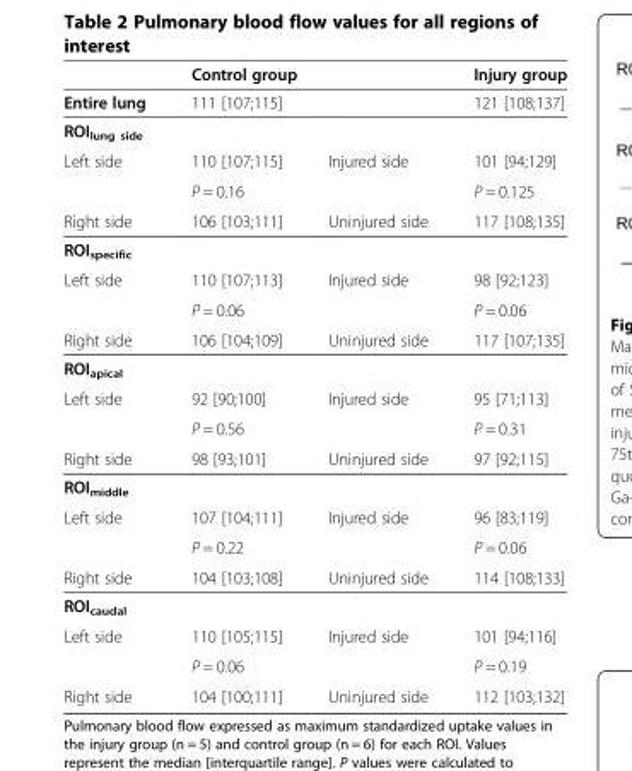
<table><thead><tr><td rowspan="2">Entire lung</td><td colspan="2">Control group</td><td rowspan="2">Injury group 121 [108;137]</td></tr><tr><td>111 [107;115]</td><td></td></tr></thead><tbody><tr><td colspan="4">ROI<sub>lung side</sub></td></tr><tr><td rowspan="2">Left side</td><td>110 [107;115]</td><td>Injured side</td><td>101 [94;129]</td></tr><tr><td>P = 0.16</td><td></td><td>P = 0.125</td></tr><tr><td>Right side</td><td>106 [103;111]</td><td>Uninjured side</td><td>117 [108;135]</td></tr><tr><td colspan="4">ROI<sub>specific</sub></td></tr><tr><td rowspan="2">Left side</td><td>110 [107;113]</td><td>Injured side</td><td>98 [92;123]</td></tr><tr><td>P = 0.06</td><td></td><td>P = 0.06</td></tr><tr><td>Right side</td><td>106 [104;109]</td><td>Uninjured side</td><td>117 [107;135]</td></tr><tr><td colspan="4">ROI<sub>apical</sub></td></tr><tr><td rowspan="2">Left side</td><td>92 [90;100]</td><td>Injured side</td><td>95 [71;113]</td></tr><tr><td>P = 0.56</td><td></td><td>P = 0.31</td></tr><tr><td>Right side</td><td>98 [93;101]</td><td>Uninjured side</td><td>97 [92;115]</td></tr><tr><td colspan="4">ROI<sub>middle</sub></td></tr><tr><td rowspan="2">Left side</td><td>107 [104;111]</td><td>Injured side</td><td>96 [83;119]</td></tr><tr><td>P = 0.22</td><td></td><td>P = 0.06</td></tr><tr><td>Right side</td><td>104 [103;108]</td><td>Uninjured side</td><td>114 [108;133]</td></tr><tr><td colspan="4">ROI<sub>caudal</sub></td></tr><tr><td rowspan="2">Left side</td><td>110 [105;115]</td><td>Injured side</td><td>101 [94;116]</td></tr><tr><td>P = 0.06</td><td></td><td>P = 0.19</td></tr><tr><td>Right side</td><td>104 [100;111]</td><td>Uninjured side</td><td>112 [103;132]</td></tr></tbody></table>